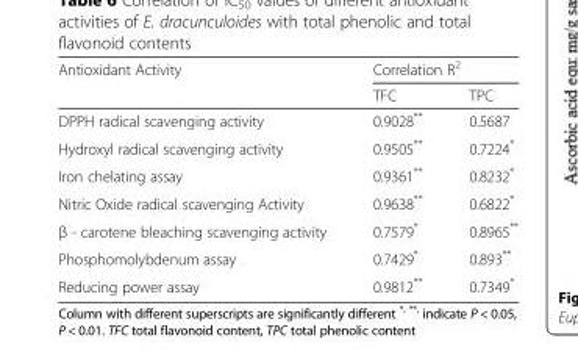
<table><thead><tr><td rowspan="2">Antioxidant Activity</td><td colspan="2">Correlation R<sup>2</sup></td></tr><tr><td>TFC</td><td>TPC</td></tr></thead><tbody><tr><td>DPPH radical scavenging activity</td><td>0.9028**</td><td>0.5687</td></tr><tr><td>Hydroxyl radical scavenging activity</td><td>0.9505**</td><td>0.7224*</td></tr><tr><td>Iron chelating assay</td><td>0.9361**</td><td>0.8232*</td></tr><tr><td>Nitric Oxide radical scavenging Activity</td><td>0.9638**</td><td>0.6822*</td></tr><tr><td>β - carotene bleaching scavenging activity</td><td>0.7579*</td><td>0.8965**</td></tr><tr><td>Phosphomolybdenum assay</td><td>0.7429*</td><td>0.893**</td></tr><tr><td>Reducing power assay</td><td>0.9812**</td><td>0.7349*</td></tr></tbody></table>